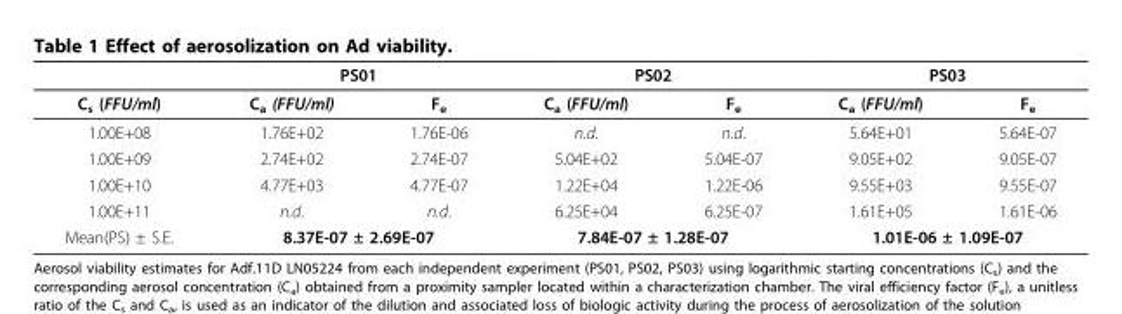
<table><thead><tr><td rowspan="2">C<sub>s</sub> (FFU/ml)</td><td colspan="2">PS01</td><td colspan="2">PS02</td><td colspan="2">PS03</td></tr><tr><td>Ca (FFU/ml)</td><td>F<sub>e</sub></td><td>C<sub>a</sub> (FFU/ml)</td><td>F<sub>e</sub></td><td>C<sub>a</sub> (FFU/ml)</td><td>F<sub>e</sub></td></tr></thead><tbody><tr><td>1.00E+08</td><td>1.76E+02</td><td>1.76E-06</td><td>n.d.</td><td>n.d.</td><td>5.64E+01</td><td>5.64E-07</td></tr><tr><td>1.00E+09</td><td>2.74E+02</td><td>2.74E-07</td><td>5.04E+02</td><td>5.04E-07</td><td>9.05E+02</td><td>9.05E-07</td></tr><tr><td>1.00E+10</td><td>4.77E+03</td><td>4.77E-07</td><td>1.22E+04</td><td>1.22E-06</td><td>9.55E+03</td><td>9.55E-07</td></tr><tr><td>1.00E+11</td><td>n.d.</td><td>n.d.</td><td>6.25E+04</td><td>6.25E-07</td><td>1.61E+05</td><td>1.61E-06</td></tr><tr><td>Mean(PS) ± S.E.</td><td colspan="2">8.37E-07 ± 2.69E-07</td><td colspan="2">7.84E-07 ± 1.28E-07</td><td colspan="2">1.01E-06 ± 1.09E-07</td></tr></tbody></table>